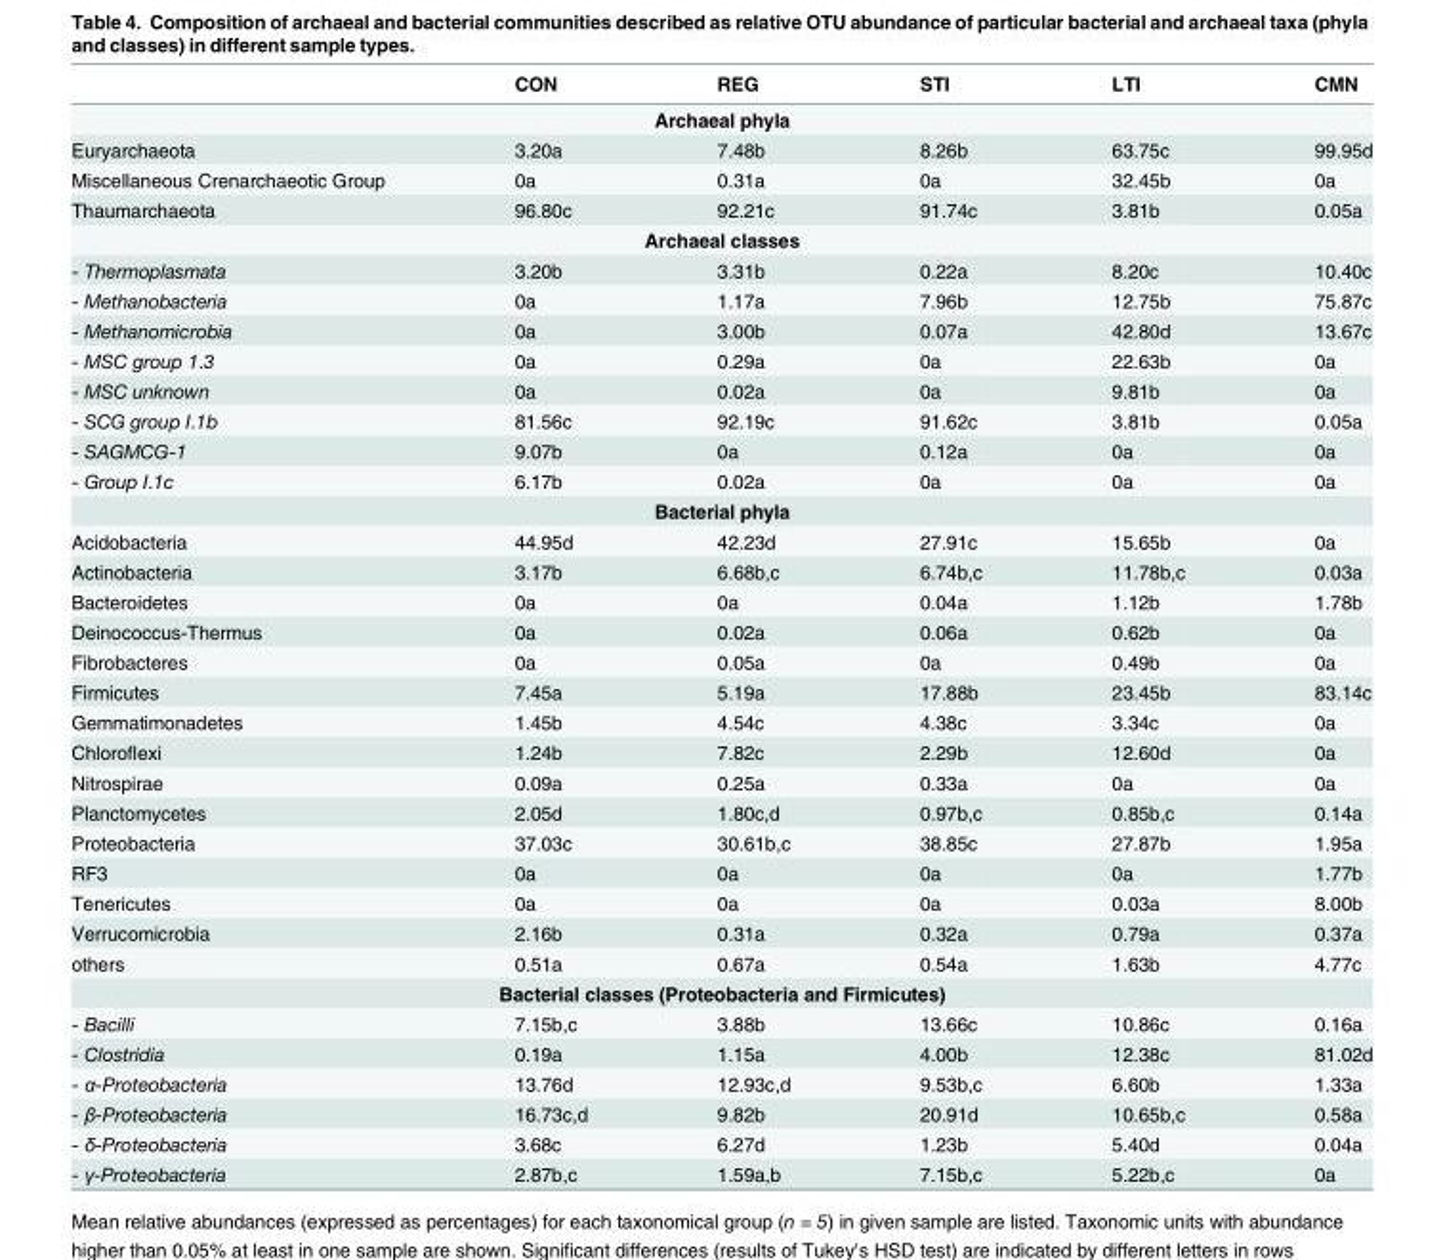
<table><thead><tr><td></td><td>CON</td><td>REG</td><td>STI</td><td>LTI</td><td>CMN</td></tr></thead><tbody><tr><td colspan="6">Archaeal phyla</td></tr><tr><td>Euryarchaeota</td><td>3.20a</td><td>7.48b</td><td>8.26b</td><td>63.75c</td><td>99.95d</td></tr><tr><td>Miscellaneous Crenarchaeotic Group</td><td>0a</td><td>0.31a</td><td>0a</td><td>32.45b</td><td>0a</td></tr><tr><td>Thaumarchaeota</td><td>96.80c</td><td>92.21c</td><td>91.74c</td><td>3.81b</td><td>0.05a</td></tr><tr><td colspan="6">Archaeal classes</td></tr><tr><td>- Thermoplasmata</td><td>3.20b</td><td>3.31b</td><td>0.22a</td><td>8.20c</td><td>10.40c</td></tr><tr><td>- Methanobacteria</td><td>0a</td><td>1.17a</td><td>7.96b</td><td>12.75b</td><td>75.87c</td></tr><tr><td>- Methanomicrobia</td><td>0a</td><td>3.00b</td><td>0.07a</td><td>42.80d</td><td>13.67c</td></tr><tr><td>- MSC group 1.3</td><td>0a</td><td>0.29a</td><td>0a</td><td>22.63b</td><td>0a</td></tr><tr><td>- MSC unknown</td><td>0a</td><td>0.02a</td><td>0a</td><td>9.81b</td><td>0a</td></tr><tr><td>- SCG group I.1b</td><td>81.56c</td><td>92.19c</td><td>91.62c</td><td>3.81b</td><td>0.05a</td></tr><tr><td>- SAGMCG-1</td><td>9.07b</td><td>0a</td><td>0.12a</td><td>0a</td><td>0a</td></tr><tr><td>- Group I.1c</td><td>6.17b</td><td>0.02a</td><td>0a</td><td>0a</td><td>0a</td></tr><tr><td colspan="6">Bacterial phyla</td></tr><tr><td>Acidobacteria</td><td>44.95d</td><td>42.23d</td><td>27.91c</td><td>15.65b</td><td>0a</td></tr><tr><td>Actinobacteria</td><td>3.17b</td><td>6.68b,c</td><td>6.74b,c</td><td>11.78b,c</td><td>0.03a</td></tr><tr><td>Bacteroidetes</td><td>0a</td><td>0a</td><td>0.04a</td><td>1.12b</td><td>1.78b</td></tr><tr><td>Deinococcus-Thermus</td><td>0a</td><td>0.02a</td><td>0.06a</td><td>0.62b</td><td>0a</td></tr><tr><td>Fibrobacteres</td><td>0a</td><td>0.05a</td><td>0a</td><td>0.49b</td><td>0a</td></tr><tr><td>Firmicutes</td><td>7.45a</td><td>5.19a</td><td>17.88b</td><td>23.45b</td><td>83.14c</td></tr><tr><td>Gemmatimonadetes</td><td>1.45b</td><td>4.54c</td><td>4.38c</td><td>3.34c</td><td>0a</td></tr><tr><td>Chloroflexi</td><td>1.24b</td><td>7.82c</td><td>2.29b</td><td>12.60d</td><td>0a</td></tr><tr><td>Nitrospirae</td><td>0.09a</td><td>0.25a</td><td>0.33a</td><td>0a</td><td>0a</td></tr><tr><td>Planctomycetes</td><td>2.05d</td><td>1.80c,d</td><td>0.97b,c</td><td>0.85b,c</td><td>0.14a</td></tr><tr><td>Proteobacteria</td><td>37.03c</td><td>30.61b,c</td><td>38.85c</td><td>27.87b</td><td>1.95a</td></tr><tr><td>RF3</td><td>0a</td><td>0a</td><td>0a</td><td>0a</td><td>1.77b</td></tr><tr><td>Tenericutes</td><td>0a</td><td>0a</td><td>0a</td><td>0.03a</td><td>8.00b</td></tr><tr><td>Verrucomicrobia</td><td>2.16b</td><td>0.31a</td><td>0.32a</td><td>0.79a</td><td>0.37a</td></tr><tr><td>others</td><td>0.51a</td><td>0.67a</td><td>0.54a</td><td>1.63b</td><td>4.77c</td></tr><tr><td colspan="6">Bacterial classes (Proteobacteria and Firmicutes)</td></tr><tr><td>- Bacilli</td><td>7.15b,c</td><td>3.88b</td><td>13.66c</td><td>10.86c</td><td>0.16a</td></tr><tr><td>- Clostridia</td><td>0.19a</td><td>1.15a</td><td>4.00b</td><td>12.38c</td><td>81.02d</td></tr><tr><td>- α-Proteobacteria</td><td>13.76d</td><td>12.93c,d</td><td>9.53b,c</td><td>6.60b</td><td>1.33a</td></tr><tr><td>- β-Proteobacteria</td><td>16.73c,d</td><td>9.82b</td><td>20.91d</td><td>10.65b,c</td><td>0.58a</td></tr><tr><td>- δ-Proteobacteria</td><td>3.68c</td><td>6.27d</td><td>1.23b</td><td>5.40d</td><td>0.04a</td></tr><tr><td>- γ-Proteobacteria</td><td>2.87b,c</td><td>1.59a,b</td><td>7.15b,c</td><td>5.22b,c</td><td>0a</td></tr></tbody></table>